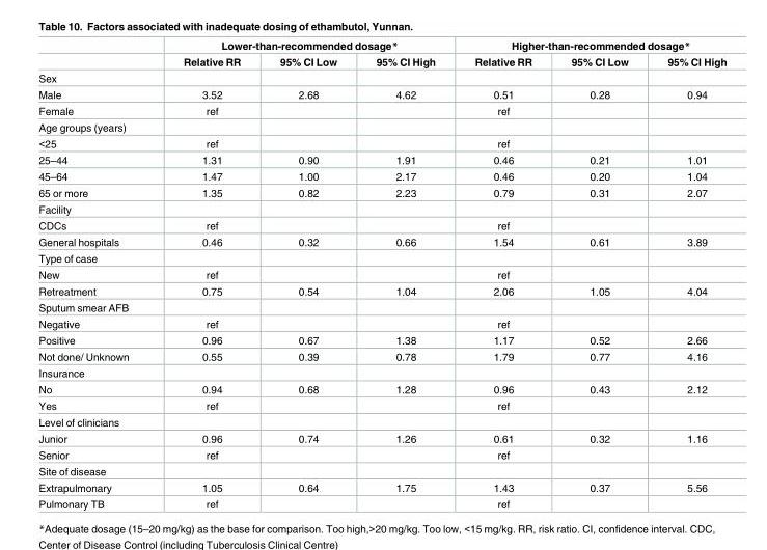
<table><thead><tr><td rowspan="2"></td><td colspan="3">Lower-than-recommended dosage*</td><td colspan="3">Higher-than-recommended dosage*</td></tr><tr><td>Relative RR</td><td>95% CI Low</td><td>95% CI High</td><td>Relative RR</td><td>95% CI Low</td><td>95% CI High</td></tr></thead><tbody><tr><td colspan="7">Sex</td></tr><tr><td>Male</td><td>3.52</td><td>2.68</td><td>4.62</td><td>0.51</td><td>0.28</td><td>0.94</td></tr><tr><td>Female</td><td>ref</td><td></td><td></td><td>ref</td><td></td><td></td></tr><tr><td colspan="7">Age groups (years)</td></tr><tr><td>&lt;25</td><td>ref</td><td></td><td></td><td>ref</td><td></td><td></td></tr><tr><td>25–44</td><td>1.31</td><td>0.90</td><td>1.91</td><td>0.46</td><td>0.21</td><td>1.01</td></tr><tr><td>45–64</td><td>1.47</td><td>1.00</td><td>2.17</td><td>0.46</td><td>0.20</td><td>1.04</td></tr><tr><td>65 or more</td><td>1.35</td><td>0.82</td><td>2.23</td><td>0.79</td><td>0.31</td><td>2.07</td></tr><tr><td colspan="7">Facility</td></tr><tr><td>CDCs</td><td>ref</td><td></td><td></td><td>ref</td><td></td><td></td></tr><tr><td>General hospitals</td><td>0.46</td><td>0.32</td><td>0.66</td><td>1.54</td><td>0.61</td><td>3.89</td></tr><tr><td colspan="7">Type of case</td></tr><tr><td>New</td><td>ref</td><td></td><td></td><td>ref</td><td></td><td></td></tr><tr><td>Retreatment</td><td>0.75</td><td>0.54</td><td>1.04</td><td>2.06</td><td>1.05</td><td>4.04</td></tr><tr><td colspan="7">Sputum smear AFB</td></tr><tr><td>Negative</td><td>ref</td><td></td><td></td><td>ref</td><td></td><td></td></tr><tr><td>Positive</td><td>0.96</td><td>0.67</td><td>1.38</td><td>1.17</td><td>0.52</td><td>2.66</td></tr><tr><td>Not done/ Unknown</td><td>0.55</td><td>0.39</td><td>0.78</td><td>1.79</td><td>0.77</td><td>4.16</td></tr><tr><td colspan="7">Insurance</td></tr><tr><td>No</td><td>0.94</td><td>0.68</td><td>1.28</td><td>0.96</td><td>0.43</td><td>2.12</td></tr><tr><td>Yes</td><td>ref</td><td></td><td></td><td>ref</td><td></td><td></td></tr><tr><td colspan="7">Level of clinicians</td></tr><tr><td>Junior</td><td>0.96</td><td>0.74</td><td>1.26</td><td>0.61</td><td>0.32</td><td>1.16</td></tr><tr><td>Senior</td><td>ref</td><td></td><td></td><td>ref</td><td></td><td></td></tr><tr><td colspan="7">Site of disease</td></tr><tr><td>Extrapulmonary</td><td>1.05</td><td>0.64</td><td>1.75</td><td>1.43</td><td>0.37</td><td>5.56</td></tr><tr><td>Pulmonary TB</td><td>ref</td><td></td><td></td><td>ref</td><td></td><td></td></tr></tbody></table>